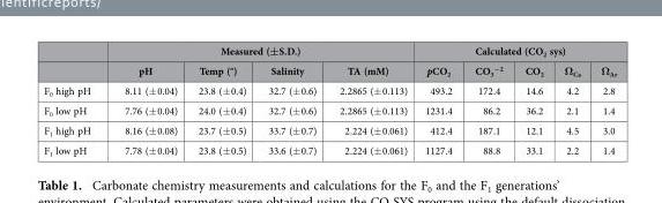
<table><thead><tr><td rowspan="2"></td><td colspan="4">Measured (±S.D.)</td><td colspan="5">Calculated (CO<sub>2</sub> sys)</td></tr><tr><td>pH</td><td>Temp (°)</td><td>Salinity</td><td>TA (mM)</td><td>pCO<sub>2</sub></td><td>CO<sub>3</sub> <sup>−2</sup></td><td>CO<sub>2</sub></td><td>Ω<sub>Ca</sub></td><td>Ω<sub>Ar</sub></td></tr></thead><tbody><tr><td>F<sub>0</sub> high pH</td><td>8.11 (± 0.04)</td><td>23.8 (± 0.4)</td><td>32.7 (± 0.6)</td><td>2.2865 (± 0.113)</td><td>493.2</td><td>172.4</td><td>14.6</td><td>4.2</td><td>2.8</td></tr><tr><td>F<sub>0</sub> low pH</td><td>7.76 (± 0.04)</td><td>24.0 (± 0.4)</td><td>32.7 (± 0.6)</td><td>2.2865 (± 0.113)</td><td>1231.4</td><td>86.2</td><td>36.2</td><td>2.1</td><td>1.4</td></tr><tr><td>F<sub>1</sub> high pH</td><td>8.16 (± 0.08)</td><td>23.7 (± 0.5)</td><td>33.7 (± 0.7)</td><td>2.224 (± 0.061)</td><td>412.4</td><td>187.1</td><td>12.1</td><td>4.5</td><td>3.0</td></tr><tr><td>F<sub>1</sub> low pH</td><td>7.78 (± 0.04)</td><td>23.8 (± 0.5)</td><td>33.6 (± 0.7)</td><td>2.224 (± 0.061)</td><td>1127.4</td><td>88.8</td><td>33.1</td><td>2.2</td><td>1.4</td></tr></tbody></table>